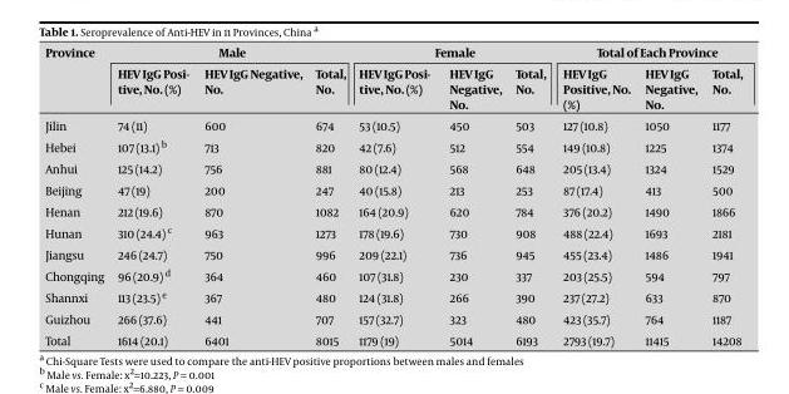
<table><thead><tr><td rowspan="2">Province</td><td colspan="3">Male</td><td colspan="3">Female</td><td colspan="3">Total of Each Province</td></tr><tr><td>HEV IgG Posi- tive, No. (%)</td><td>HEV IgG Negative, No.</td><td>Total, No.</td><td>HEV IgG Posi- tive, No. (%)</td><td>HEV IgG Negative, No.</td><td>Total, No.</td><td>HEV IgG Positive, No. (%)</td><td>HEV IgG Negative, No.</td><td>Total, No.</td></tr></thead><tbody><tr><td>Jilin</td><td>74 (11)</td><td>600</td><td>674</td><td>53 (10.5)</td><td>450</td><td>503</td><td>127 (10.8)</td><td>1050</td><td>1177</td></tr><tr><td>Hebei</td><td>107 (13.1) b</td><td>713</td><td>820</td><td>42 (7.6)</td><td>512</td><td>554</td><td>149 (10.8)</td><td>1225</td><td>1374</td></tr><tr><td>Anhui</td><td>125 (14.2)</td><td>756</td><td>881</td><td>80 (12.4)</td><td>568</td><td>648</td><td>205 (13.4)</td><td>1324</td><td>1529</td></tr><tr><td>Beijing</td><td>47 (19)</td><td>200</td><td>247</td><td>40 (15.8)</td><td>213</td><td>253</td><td>87 (17.4)</td><td>413</td><td>500</td></tr><tr><td>Henan</td><td>212 (19.6)</td><td>870</td><td>1082</td><td>164 (20.9)</td><td>620</td><td>784</td><td>376 (20.2)</td><td>1490</td><td>1866</td></tr><tr><td>Hunan</td><td>310 (24.4) c</td><td>963</td><td>1273</td><td>178 (19.6)</td><td>730</td><td>908</td><td>488 (22.4)</td><td>1693</td><td>2181</td></tr><tr><td>Jiangsu</td><td>246 (24.7)</td><td>750</td><td>996</td><td>209 (22.1)</td><td>736</td><td>945</td><td>455 (23.4)</td><td>1486</td><td>1941</td></tr><tr><td>Chongqing</td><td>96 (20.9) <sup>d</sup></td><td>364</td><td>460</td><td>107 (31.8)</td><td>230</td><td>337</td><td>203 (25.5)</td><td>594</td><td>797</td></tr><tr><td>Shannxi</td><td>113 (23.5) e</td><td>367</td><td>480</td><td>124 (31.8)</td><td>266</td><td>390</td><td>237 (27.2)</td><td>633</td><td>870</td></tr><tr><td>Guizhou</td><td>266 (37.6)</td><td>441</td><td>707</td><td>157 (32.7)</td><td>323</td><td>480</td><td>423 (35.7)</td><td>764</td><td>1187</td></tr><tr><td>Total</td><td>1614 (20.1)</td><td>6401</td><td>8015</td><td>1179 (19)</td><td>5014</td><td>6193</td><td>2793 (19.7)</td><td>11415</td><td>14208</td></tr></tbody></table>